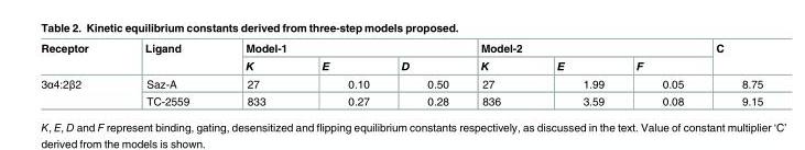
<table><thead><tr><td rowspan="2">Receptor</td><td rowspan="2">Ligand</td><td colspan="3">Model-1</td><td colspan="3">Model-2</td><td rowspan="2">C</td></tr><tr><td>K</td><td>E</td><td>D</td><td>K</td><td>E</td><td>F</td></tr></thead><tbody><tr><td rowspan="2">3α4:2β2</td><td>Saz-A</td><td>27</td><td>0.10</td><td>0.50</td><td>27</td><td>1.99</td><td>0.05</td><td>8.75</td></tr><tr><td>TC-2559</td><td>833</td><td>0.27</td><td>0.28</td><td>836</td><td>3.59</td><td>0.08</td><td>9.15</td></tr></tbody></table>